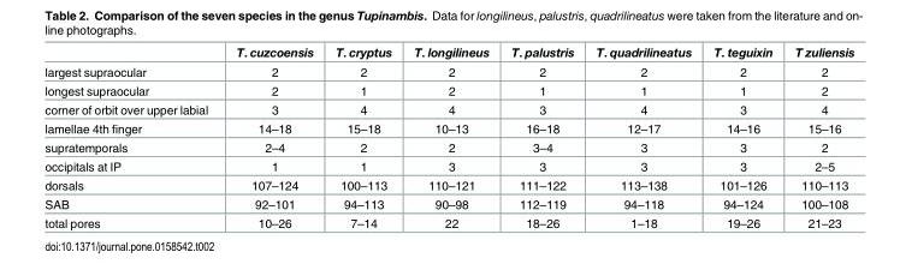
<table><thead><tr><td></td><td>T. cuzcoensis</td><td>T. cryptus</td><td>T. longilineus</td><td>T. palustris</td><td>T. quadrilineatus</td><td>T. teguixin</td><td>T zuliensis</td></tr></thead><tbody><tr><td>largest supraocular</td><td>2</td><td>2</td><td>2</td><td>2</td><td>2</td><td>2</td><td>2</td></tr><tr><td>longest supraocular</td><td>2</td><td>1</td><td>2</td><td>1</td><td>1</td><td>1</td><td>2</td></tr><tr><td>corner of orbit over upper labial</td><td>3</td><td>4</td><td>4</td><td>3</td><td>4</td><td>3</td><td>4</td></tr><tr><td>lamellae 4th finger</td><td>14–18</td><td>15–18</td><td>10–13</td><td>16–18</td><td>12–17</td><td>14–16</td><td>15–16</td></tr><tr><td>supratemporals</td><td>2–4</td><td>2</td><td>2</td><td>3–4</td><td>3</td><td>3</td><td>2</td></tr><tr><td>occipitals at IP</td><td>1</td><td>1</td><td>3</td><td>3</td><td>3</td><td>3</td><td>2–5</td></tr><tr><td>dorsals</td><td>107–124</td><td>100–113</td><td>110–121</td><td>111–122</td><td>113–138</td><td>101–126</td><td>110–113</td></tr><tr><td>SAB</td><td>92–101</td><td>94–113</td><td>90–98</td><td>112–119</td><td>94–118</td><td>94–124</td><td>100–108</td></tr><tr><td>total pores</td><td>10–26</td><td>7–14</td><td>22</td><td>18–26</td><td>1–18</td><td>19–26</td><td>21–23</td></tr></tbody></table>